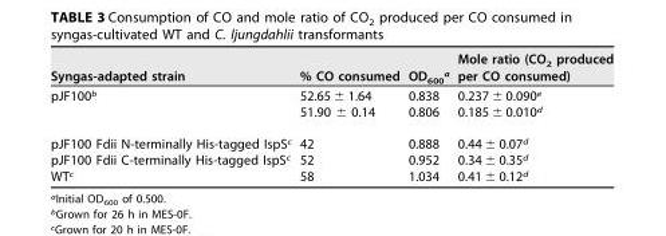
<table><thead><tr><td>Syngas-adapted strain</td><td>% CO consumed</td><td>OD<sub>600</sub><sup>a</sup></td><td>Mole ratio (CO<sub>2</sub> produced per CO consumed)</td></tr></thead><tbody><tr><td rowspan="2">pJF100<sup>b</sup></td><td>52.65 ± 1.64</td><td>0.838</td><td>0.237 ± 0.090<sup>e</sup></td></tr><tr><td>51.90 ± 0.14</td><td>0.806</td><td>0.185 ± 0.010<sup>d</sup></td></tr><tr><td>pJF100 Fdii N-terminally His-tagged IspS<sup>c</sup></td><td>42</td><td>0.888</td><td>0.44 ± 0.07<sup>d</sup></td></tr><tr><td>pJF100 Fdii C-terminally His-tagged IspS<sup>c</sup></td><td>52</td><td>0.952</td><td>0.34 ± 0.35<sup>d</sup></td></tr><tr><td>WT<sup>c</sup></td><td>58</td><td>1.034</td><td>0.41 ± 0.12<sup>d</sup></td></tr></tbody></table>